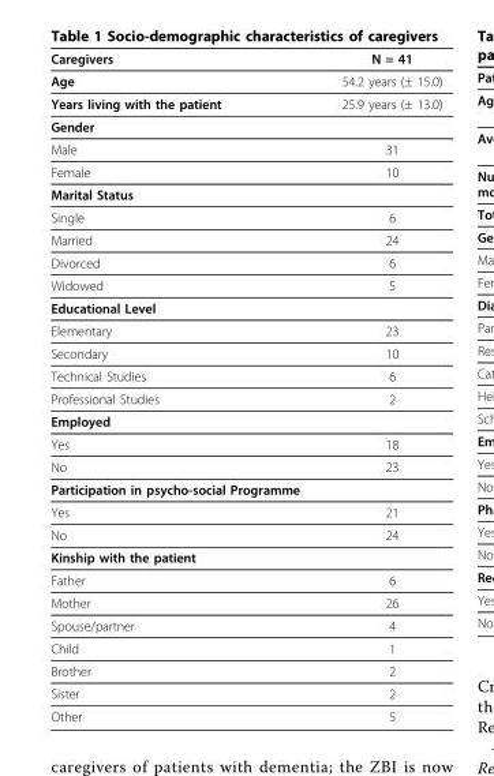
<table><thead><tr><td>Caregivers</td><td>N = 41</td></tr></thead><tbody><tr><td>Age</td><td>54.2 years (± 15.0)</td></tr><tr><td>Years living with the patient</td><td>25.9 years (± 13.0)</td></tr><tr><td colspan="2">Gender</td></tr><tr><td>Male</td><td>31</td></tr><tr><td>Female</td><td>10</td></tr><tr><td colspan="2">Marital Status</td></tr><tr><td>Single</td><td>6</td></tr><tr><td>Married</td><td>24</td></tr><tr><td>Divorced</td><td>6</td></tr><tr><td>Widowed</td><td>5</td></tr><tr><td colspan="2">Educational Level</td></tr><tr><td>Elementary</td><td>23</td></tr><tr><td>Secondary</td><td>10</td></tr><tr><td>Technical Studies</td><td>6</td></tr><tr><td>Professional Studies</td><td>2</td></tr><tr><td colspan="2">Employed</td></tr><tr><td>Yes</td><td>18</td></tr><tr><td>No</td><td>23</td></tr><tr><td colspan="2">Participation in psycho-social Programme</td></tr><tr><td>Yes</td><td>21</td></tr><tr><td>No</td><td>24</td></tr><tr><td colspan="2">Kinship with the patient</td></tr><tr><td>Father</td><td>6</td></tr><tr><td>Mother</td><td>26</td></tr><tr><td>Spouse/partner</td><td>4</td></tr><tr><td>Child</td><td>1</td></tr><tr><td>Brother</td><td>2</td></tr><tr><td>Sister</td><td>2</td></tr><tr><td>Other</td><td>5</td></tr></tbody></table>